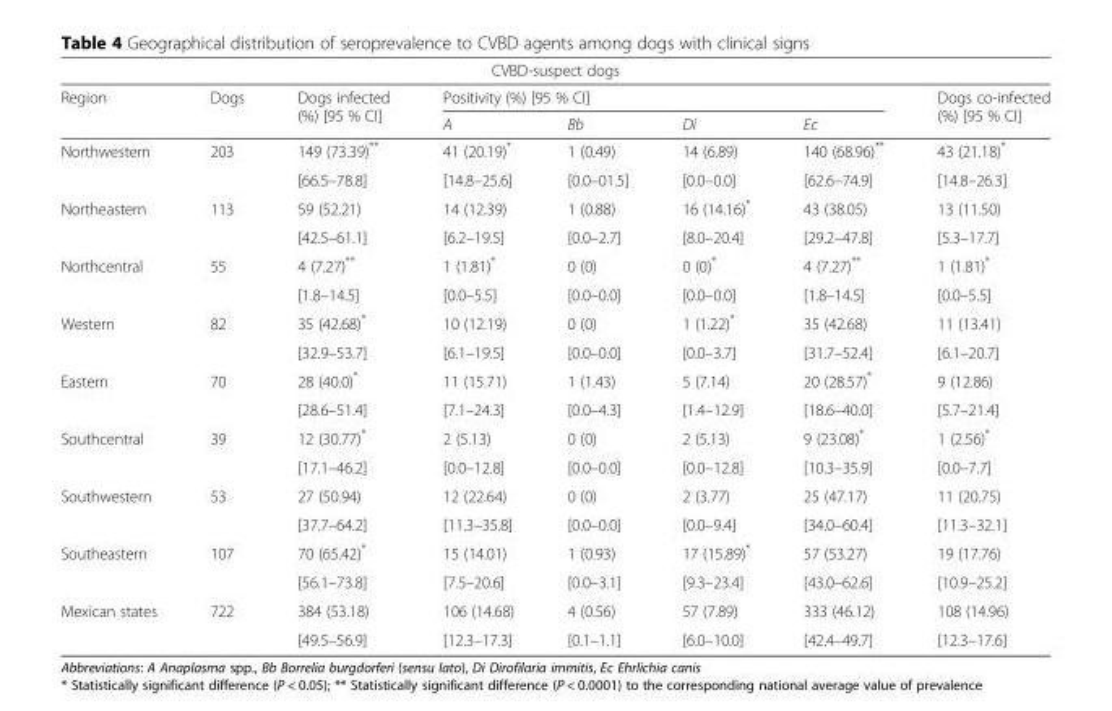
<table><thead><tr><td colspan="8">CVBD-suspect dogs</td></tr><tr><td rowspan="2">Region</td><td rowspan="2">Dogs</td><td rowspan="2">Dogs infected (%) [95 % CI]</td><td colspan="4">Positivity (%) [95 % CI]</td><td rowspan="2">Dogs co-infected (%) [95 % CI]</td></tr><tr><td>A</td><td>Bb</td><td>Di</td><td>Ec</td></tr></thead><tbody><tr><td rowspan="2">Northwestern</td><td rowspan="2">203</td><td>149 (73.39)**</td><td>41 (20.19)*</td><td>1 (0.49)</td><td>14 (6.89)</td><td>140 (68.96)**</td><td>43 (21.18)*</td></tr><tr><td>[66.5–78.8]</td><td>[14.8–25.6]</td><td>[0.0–01.5]</td><td>[0.0–0.0]</td><td>[62.6–74.9]</td><td>[14.8–26.3]</td></tr><tr><td rowspan="2">Northeastern</td><td rowspan="2">113</td><td>59 (52.21)</td><td>14 (12.39)</td><td>1 (0.88)</td><td>16 (14.16)*</td><td>43 (38.05)</td><td>13 (11.50)</td></tr><tr><td>[42.5–61.1]</td><td>[6.2–19.5]</td><td>[0.0–2.7]</td><td>[8.0–20.4]</td><td>[29.2–47.8]</td><td>[5.3–17.7]</td></tr><tr><td rowspan="2">Northcentral</td><td rowspan="2">55</td><td>4 (7.27)**</td><td>1 (1.81)*</td><td>0 (0)</td><td>0 (0)*</td><td>4 (7.27)**</td><td>1 (1.81)*</td></tr><tr><td>[1.8–14.5]</td><td>[0.0–5.5]</td><td>[0.0–0.0]</td><td>[0.0–0.0]</td><td>[1.8–14.5]</td><td>[0.0–5.5]</td></tr><tr><td rowspan="2">Western</td><td rowspan="2">82</td><td>35 (42.68)*</td><td>10 (12.19)</td><td>0 (0)</td><td>1 (1.22)*</td><td>35 (42.68)</td><td>11 (13.41)</td></tr><tr><td>[32.9–53.7]</td><td>[6.1–19.5]</td><td>[0.0–0.0]</td><td>[0.0–3.7]</td><td>[31.7–52.4]</td><td>[6.1–20.7]</td></tr><tr><td rowspan="2">Eastern</td><td rowspan="2">70</td><td>28 (40.0)*</td><td>11 (15.71)</td><td>1 (1.43)</td><td>5 (7.14)</td><td>20 (28.57)*</td><td>9 (12.86)</td></tr><tr><td>[28.6–51.4]</td><td>[7.1–24.3]</td><td>[0.0–4.3]</td><td>[1.4–12.9]</td><td>[18.6–40.0]</td><td>[5.7–21.4]</td></tr><tr><td rowspan="2">Southcentral</td><td rowspan="2">39</td><td>12 (30.77)*</td><td>2 (5.13)</td><td>0 (0)</td><td>2 (5.13)</td><td>9 (23.08)*</td><td>1 (2.56)*</td></tr><tr><td>[17.1–46.2]</td><td>[0.0–12.8]</td><td>[0.0–0.0]</td><td>[0.0–12.8]</td><td>[10.3–35.9]</td><td>[0.0–7.7]</td></tr><tr><td rowspan="2">Southwestern</td><td rowspan="2">53</td><td>27 (50.94)</td><td>12 (22.64)</td><td>0 (0)</td><td>2 (3.77)</td><td>25 (47.17)</td><td>11 (20.75)</td></tr><tr><td>[37.7–64.2]</td><td>[11.3–35.8]</td><td>[0.0–0.0]</td><td>[0.0–9.4]</td><td>[34.0–60.4]</td><td>[11.3–32.1]</td></tr><tr><td rowspan="2">Southeastern</td><td rowspan="2">107</td><td>70 (65.42)*</td><td>15 (14.01)</td><td>1 (0.93)</td><td>17 (15.89)*</td><td>57 (53.27)</td><td>19 (17.76)</td></tr><tr><td>[56.1–73.8]</td><td>[7.5–20.6]</td><td>[0.0–3.1]</td><td>[9.3–23.4]</td><td>[43.0–62.6]</td><td>[10.9–25.2]</td></tr><tr><td rowspan="2">Mexican states</td><td rowspan="2">722</td><td>384 (53.18)</td><td>106 (14.68)</td><td>4 (0.56)</td><td>57 (7.89)</td><td>333 (46.12)</td><td>108 (14.96)</td></tr><tr><td>[49.5–56.9]</td><td>[12.3–17.3]</td><td>[0.1–1.1]</td><td>[6.0–10.0]</td><td>[42.4–49.7]</td><td>[12.3–17.6]</td></tr></tbody></table>